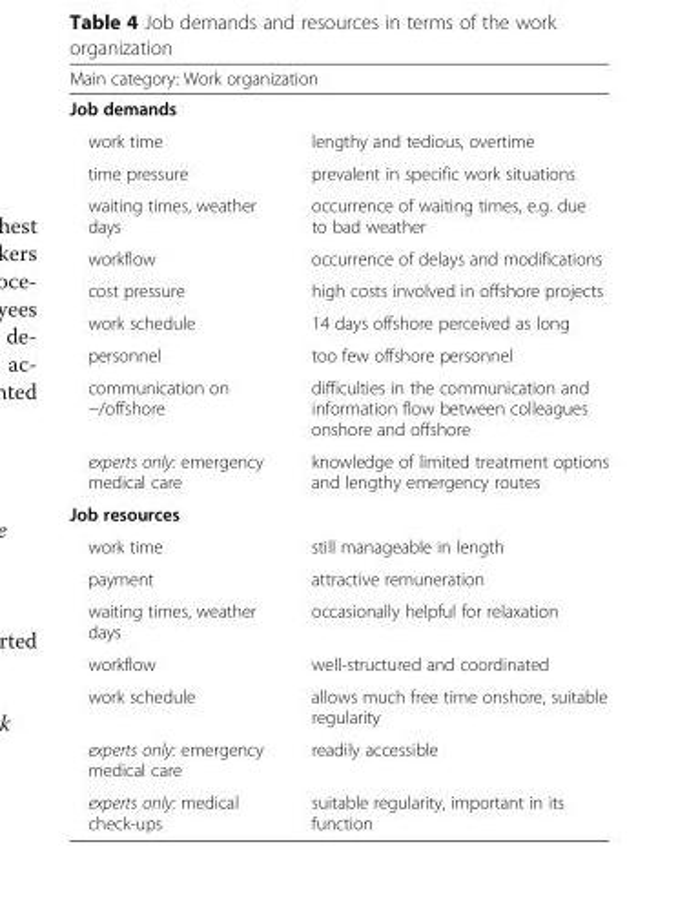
<table><thead><tr><td rowspan="2" colspan="2">Main category: Work organization Job demands</td></tr><tr></tr><tr><td>work time</td><td>lengthy and tedious, overtime</td></tr></thead><tbody><tr><td>time pressure</td><td>prevalent in specific work situations</td></tr><tr><td>waiting times, weather days</td><td>occurrence of waiting times, e.g. due to bad weather</td></tr><tr><td>workflow</td><td>occurrence of delays and modifications</td></tr><tr><td>cost pressure</td><td>high costs involved in offshore projects</td></tr><tr><td>work schedule</td><td>14 days offshore perceived as long</td></tr><tr><td>personnel</td><td>too few offshore personnel</td></tr><tr><td>communication on −/offshore</td><td>difficulties in the communication and information flow between colleagues onshore and offshore</td></tr><tr><td>experts only: emergency medical care</td><td>knowledge of limited treatment options and lengthy emergency routes</td></tr><tr><td colspan="2">Job resources</td></tr><tr><td>work time</td><td>still manageable in length</td></tr><tr><td>payment</td><td>attractive remuneration</td></tr><tr><td>waiting times, weather days</td><td>occasionally helpful for relaxation</td></tr><tr><td>workflow</td><td>well-structured and coordinated</td></tr><tr><td>work schedule</td><td>allows much free time onshore, suitable regularity</td></tr><tr><td>experts only: emergency medical care</td><td>readily accessible</td></tr><tr><td>experts only: medical check-ups</td><td>suitable regularity, important in its function</td></tr></tbody></table>